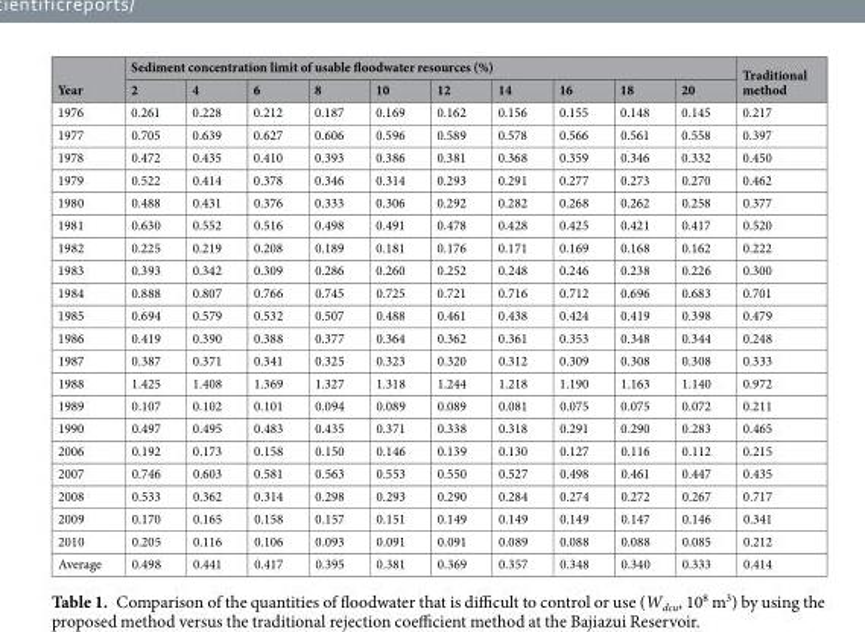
<table><thead><tr><td rowspan="2">Year</td><td colspan="10">Sediment concentration limit of usable floodwater resources (%)</td><td rowspan="2">Traditional method</td></tr><tr><td>2</td><td>4</td><td>6</td><td>8</td><td>10</td><td>12</td><td>14</td><td>16</td><td>18</td><td>20</td></tr></thead><tbody><tr><td>1976</td><td>0.261</td><td>0.228</td><td>0.212</td><td>0.187</td><td>0.169</td><td>0.162</td><td>0.156</td><td>0.155</td><td>0.148</td><td>0.145</td><td>0.217</td></tr><tr><td>1977</td><td>0.705</td><td>0.639</td><td>0.627</td><td>0.606</td><td>0.596</td><td>0.589</td><td>0.578</td><td>0.566</td><td>0.561</td><td>0.558</td><td>0.397</td></tr><tr><td>1978</td><td>0.472</td><td>0.435</td><td>0.410</td><td>0.393</td><td>0.386</td><td>0.381</td><td>0.368</td><td>0.359</td><td>0.346</td><td>0.332</td><td>0.450</td></tr><tr><td>1979</td><td>0.522</td><td>0.414</td><td>0.378</td><td>0.346</td><td>0.314</td><td>0.293</td><td>0.291</td><td>0.277</td><td>0.273</td><td>0.270</td><td>0.462</td></tr><tr><td>1980</td><td>0.488</td><td>0.431</td><td>0.376</td><td>0.333</td><td>0.306</td><td>0.292</td><td>0.282</td><td>0.268</td><td>0.262</td><td>0.258</td><td>0.377</td></tr><tr><td>1981</td><td>0.630</td><td>0.552</td><td>0.516</td><td>0.498</td><td>0.491</td><td>0.478</td><td>0.428</td><td>0.425</td><td>0.421</td><td>0.417</td><td>0.520</td></tr><tr><td>1982</td><td>0.225</td><td>0.219</td><td>0.208</td><td>0.189</td><td>0.181</td><td>0.176</td><td>0.171</td><td>0.169</td><td>0.168</td><td>0.162</td><td>0.222</td></tr><tr><td>1983</td><td>0.393</td><td>0.342</td><td>0.309</td><td>0.286</td><td>0.260</td><td>0.252</td><td>0.248</td><td>0.246</td><td>0.238</td><td>0.226</td><td>0.300</td></tr><tr><td>1984</td><td>0.888</td><td>0.807</td><td>0.766</td><td>0.745</td><td>0.725</td><td>0.721</td><td>0.716</td><td>0.712</td><td>0.696</td><td>0.683</td><td>0.701</td></tr><tr><td>1985</td><td>0.694</td><td>0.579</td><td>0.532</td><td>0.507</td><td>0.488</td><td>0.461</td><td>0.438</td><td>0.424</td><td>0.419</td><td>0.398</td><td>0.479</td></tr><tr><td>1986</td><td>0.419</td><td>0.390</td><td>0.388</td><td>0.377</td><td>0.364</td><td>0.362</td><td>0.361</td><td>0.353</td><td>0.348</td><td>0.344</td><td>0.248</td></tr><tr><td>1987</td><td>0.387</td><td>0.371</td><td>0.341</td><td>0.325</td><td>0.323</td><td>0.320</td><td>0.312</td><td>0.309</td><td>0.308</td><td>0.308</td><td>0.333</td></tr><tr><td>1988</td><td>1.425</td><td>1.408</td><td>1.369</td><td>1.327</td><td>1.318</td><td>1.244</td><td>1.218</td><td>1.190</td><td>1.163</td><td>1.140</td><td>0.972</td></tr><tr><td>1989</td><td>0.107</td><td>0.102</td><td>0.101</td><td>0.094</td><td>0.089</td><td>0.089</td><td>0.081</td><td>0.075</td><td>0.075</td><td>0.072</td><td>0.211</td></tr><tr><td>1990</td><td>0.497</td><td>0.495</td><td>0.483</td><td>0.435</td><td>0.371</td><td>0.338</td><td>0.318</td><td>0.291</td><td>0.290</td><td>0.283</td><td>0.465</td></tr><tr><td>2006</td><td>0.192</td><td>0.173</td><td>0.158</td><td>0.150</td><td>0.146</td><td>0.139</td><td>0.130</td><td>0.127</td><td>0.116</td><td>0.112</td><td>0.215</td></tr><tr><td>2007</td><td>0.746</td><td>0.603</td><td>0.581</td><td>0.563</td><td>0.553</td><td>0.550</td><td>0.527</td><td>0.498</td><td>0.461</td><td>0.447</td><td>0.435</td></tr><tr><td>2008</td><td>0.533</td><td>0.362</td><td>0.314</td><td>0.298</td><td>0.293</td><td>0.290</td><td>0.284</td><td>0.274</td><td>0.272</td><td>0.267</td><td>0.717</td></tr><tr><td>2009</td><td>0.170</td><td>0.165</td><td>0.158</td><td>0.157</td><td>0.151</td><td>0.149</td><td>0.149</td><td>0.149</td><td>0.147</td><td>0.146</td><td>0.341</td></tr><tr><td>2010</td><td>0.205</td><td>0.116</td><td>0.106</td><td>0.093</td><td>0.091</td><td>0.091</td><td>0.089</td><td>0.088</td><td>0.088</td><td>0.085</td><td>0.212</td></tr><tr><td>Average</td><td>0.498</td><td>0.441</td><td>0.417</td><td>0.395</td><td>0.381</td><td>0.369</td><td>0.357</td><td>0.348</td><td>0.340</td><td>0.333</td><td>0.414</td></tr></tbody></table>